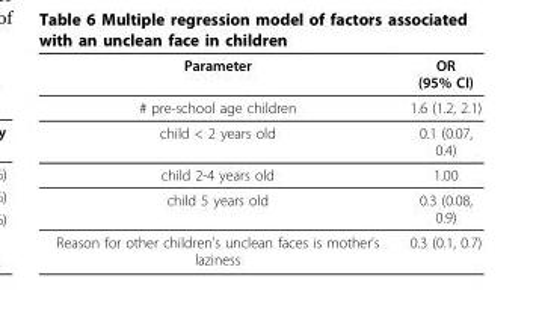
<table><thead><tr><td>Parameter</td><td>OR (95% CI)</td></tr></thead><tbody><tr><td># pre-school age children</td><td>1.6 (1.2, 2.1)</td></tr><tr><td>child &lt; 2 years old</td><td>0.1 (0.07, 0.4)</td></tr><tr><td>child 2-4 years old</td><td>1.00</td></tr><tr><td>child 5 years old</td><td>0.3 (0.08, 0.9)</td></tr><tr><td>Reason for other children’s unclean faces is mother’s laziness</td><td>0.3 (0.1, 0.7)</td></tr></tbody></table>